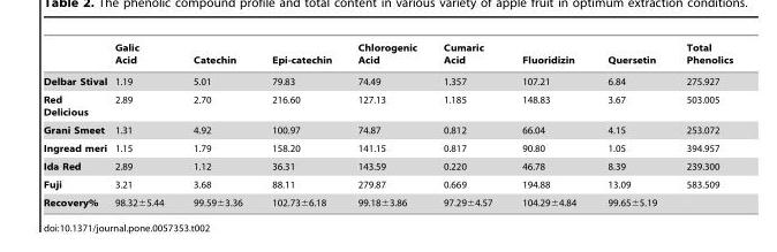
<table><thead><tr><td></td><td>Galic Acid</td><td>Catechin</td><td>Epi-catechin</td><td>Chlorogenic Acid</td><td>Cumaric Acid</td><td>Fluoridizin</td><td>Quersetin</td><td>Total Phenolics</td></tr></thead><tbody><tr><td>Delbar Stival</td><td>1.19</td><td>5.01</td><td>79.83</td><td>74.49</td><td>1.357</td><td>107.21</td><td>6.84</td><td>275.927</td></tr><tr><td>Red Delicious</td><td>2.89</td><td>2.70</td><td>216.60</td><td>127.13</td><td>1.185</td><td>148.83</td><td>3.67</td><td>503.005</td></tr><tr><td>Grani Smeet</td><td>1.31</td><td>4.92</td><td>100.97</td><td>74.87</td><td>0.812</td><td>66.04</td><td>4.15</td><td>253.072</td></tr><tr><td>Ingread meri</td><td>1.15</td><td>1.79</td><td>158.20</td><td>141.15</td><td>0.817</td><td>90.80</td><td>1.05</td><td>394.957</td></tr><tr><td>Ida Red</td><td>2.89</td><td>1.12</td><td>36.31</td><td>143.59</td><td>0.220</td><td>46.78</td><td>8.39</td><td>239.300</td></tr><tr><td>Fuji</td><td>3.21</td><td>3.68</td><td>88.11</td><td>279.87</td><td>0.669</td><td>194.88</td><td>13.09</td><td>583.509</td></tr><tr><td>Recovery%</td><td>98.32±5.44</td><td>99.59±3.36</td><td>102.73±6.18</td><td>99.18±3.86</td><td>97.29±4.57</td><td>104.29±4.84</td><td>99.65±5.19</td><td></td></tr></tbody></table>